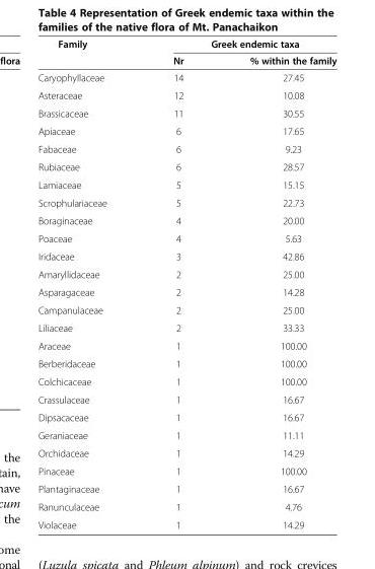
<table><thead><tr><td rowspan="2">Family</td><td colspan="2">Greek endemic taxa</td></tr><tr><td>Nr</td><td>% within the family</td></tr></thead><tbody><tr><td>Caryophyllaceae</td><td>14</td><td>27.45</td></tr><tr><td>Asteraceae</td><td>12</td><td>10.08</td></tr><tr><td>Brassicaceae</td><td>11</td><td>30.55</td></tr><tr><td>Apiaceae</td><td>6</td><td>17.65</td></tr><tr><td>Fabaceae</td><td>6</td><td>9.23</td></tr><tr><td>Rubiaceae</td><td>6</td><td>28.57</td></tr><tr><td>Lamiaceae</td><td>5</td><td>15.15</td></tr><tr><td>Scrophulariaceae</td><td>5</td><td>22.73</td></tr><tr><td>Boraginaceae</td><td>4</td><td>20.00</td></tr><tr><td>Poaceae</td><td>4</td><td>5.63</td></tr><tr><td>Iridaceae</td><td>3</td><td>42.86</td></tr><tr><td>Amaryllidaceae</td><td>2</td><td>25.00</td></tr><tr><td>Asparagaceae</td><td>2</td><td>14.28</td></tr><tr><td>Campanulaceae</td><td>2</td><td>25.00</td></tr><tr><td>Liliaceae</td><td>2</td><td>33.33</td></tr><tr><td>Araceae</td><td>1</td><td>100.00</td></tr><tr><td>Berberidaceae</td><td>1</td><td>100.00</td></tr><tr><td>Colchicaceae</td><td>1</td><td>100.00</td></tr><tr><td>Crassulaceae</td><td>1</td><td>16.67</td></tr><tr><td>Dipsacaceae</td><td>1</td><td>16.67</td></tr><tr><td>Geraniaceae</td><td>1</td><td>11.11</td></tr><tr><td>Orchidaceae</td><td>1</td><td>14.29</td></tr><tr><td>Pinaceae</td><td>1</td><td>100.00</td></tr><tr><td>Plantaginaceae</td><td>1</td><td>16.67</td></tr><tr><td>Ranunculaceae</td><td>1</td><td>4.76</td></tr><tr><td>Violaceae</td><td>1</td><td>14.29</td></tr></tbody></table>